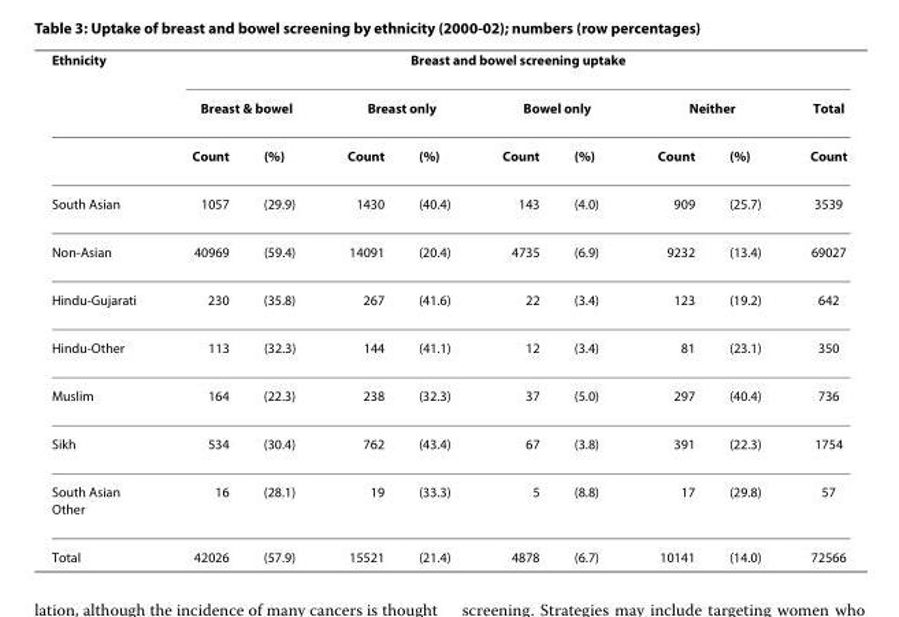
<table><thead><tr><td rowspan="3">Ethnicity</td><td colspan="9">Breast and bowel screening uptake</td></tr><tr><td colspan="2">Breast &amp; bowel</td><td colspan="2">Breast only</td><td colspan="2">Bowel only</td><td colspan="2">Neither</td><td rowspan="2">Total Count</td></tr><tr><td>Count</td><td>(%)</td><td>Count</td><td>(%)</td><td>Count</td><td>(%)</td><td>Count</td><td>(%)</td></tr></thead><tbody><tr><td>South Asian</td><td>1057</td><td>(29.9)</td><td>1430</td><td>(40.4)</td><td>143</td><td>(4.0)</td><td>909</td><td>(25.7)</td><td>3539</td></tr><tr><td>Non-Asian</td><td>40969</td><td>(59.4)</td><td>14091</td><td>(20.4)</td><td>4735</td><td>(6.9)</td><td>9232</td><td>(13.4)</td><td>69027</td></tr><tr><td>Hindu-Gujarati</td><td>230</td><td>(35.8)</td><td>267</td><td>(41.6)</td><td>22</td><td>(3.4)</td><td>123</td><td>(19.2)</td><td>642</td></tr><tr><td>Hindu-Other</td><td>113</td><td>(32.3)</td><td>144</td><td>(41.1)</td><td>12</td><td>(3.4)</td><td>81</td><td>(23.1)</td><td>350</td></tr><tr><td>Muslim</td><td>164</td><td>(22.3)</td><td>238</td><td>(32.3)</td><td>37</td><td>(5.0)</td><td>297</td><td>(40.4)</td><td>736</td></tr><tr><td>Sikh</td><td>534</td><td>(30.4)</td><td>762</td><td>(43.4)</td><td>67</td><td>(3.8)</td><td>391</td><td>(22.3)</td><td>1754</td></tr><tr><td>South Asian Other</td><td>16</td><td>(28.1)</td><td>19</td><td>(33.3)</td><td>5</td><td>(8.8)</td><td>17</td><td>(29.8)</td><td>57</td></tr><tr><td>Total</td><td>42026</td><td>(57.9)</td><td>15521</td><td>(21.4)</td><td>4878</td><td>(6.7)</td><td>10141</td><td>(14.0)</td><td>72566</td></tr></tbody></table>